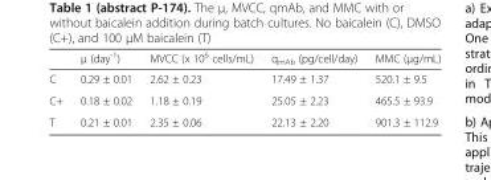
<table><thead><tr><td></td><td>μ (day<sup>-1</sup>)</td><td>MVCC (x 10<sup>6</sup> cells/mL)</td><td>q<sub>mAb</sub> (pg/cell/day)</td><td>MMC (μg/mL)</td></tr></thead><tbody><tr><td>C</td><td>0.29 ± 0.01</td><td>2.62 ± 0.23</td><td>17.49 ± 1.37</td><td>520.1 ± 9.5</td></tr><tr><td>C+</td><td>0.18 ± 0.02</td><td>1.18 ± 0.19</td><td>25.05 ± 2.23</td><td>465.5 ± 93.9</td></tr><tr><td>T</td><td>0.21 ± 0.01</td><td>2.35 ± 0.06</td><td>22.13 ± 2.20</td><td>901.3 ± 112.9</td></tr></tbody></table>